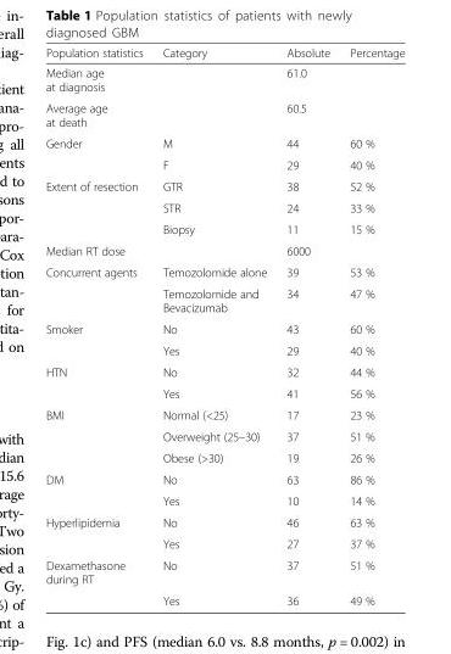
<table><thead><tr><td>Population statistics</td><td>Category</td><td>Absolute</td><td>Percentage</td></tr></thead><tbody><tr><td>Median age at diagnosis</td><td></td><td>61.0</td><td></td></tr><tr><td>Average age at death</td><td></td><td>60.5</td><td></td></tr><tr><td rowspan="2">Gender</td><td>M</td><td>44</td><td>60 %</td></tr><tr><td>F</td><td>29</td><td>40 %</td></tr><tr><td rowspan="3">Extent of resection</td><td>GTR</td><td>38</td><td>52 %</td></tr><tr><td>STR</td><td>24</td><td>33 %</td></tr><tr><td>Biopsy</td><td>11</td><td>15 %</td></tr><tr><td>Median RT dose</td><td></td><td>6000</td><td></td></tr><tr><td rowspan="2">Concurrent agents</td><td>Temozolomide alone</td><td>39</td><td>53 %</td></tr><tr><td>Temozolomide and Bevacizumab</td><td>34</td><td>47 %</td></tr><tr><td rowspan="2">Smoker</td><td>No</td><td>43</td><td>60 %</td></tr><tr><td>Yes</td><td>29</td><td>40 %</td></tr><tr><td rowspan="2">HTN</td><td>No</td><td>32</td><td>44 %</td></tr><tr><td>Yes</td><td>41</td><td>56 %</td></tr><tr><td rowspan="3">BMI</td><td>Normal (&lt;25)</td><td>17</td><td>23 %</td></tr><tr><td>Overweight (25–30)</td><td>37</td><td>51 %</td></tr><tr><td>Obese (&gt;30)</td><td>19</td><td>26 %</td></tr><tr><td rowspan="2">DM</td><td>No</td><td>63</td><td>86 %</td></tr><tr><td>Yes</td><td>10</td><td>14 %</td></tr><tr><td rowspan="2">Hyperlipidemia</td><td>No</td><td>46</td><td>63 %</td></tr><tr><td>Yes</td><td>27</td><td>37 %</td></tr><tr><td rowspan="2">Dexamethasone during RT</td><td>No</td><td>37</td><td>51 %</td></tr><tr><td>Yes</td><td>36</td><td>49 %</td></tr></tbody></table>